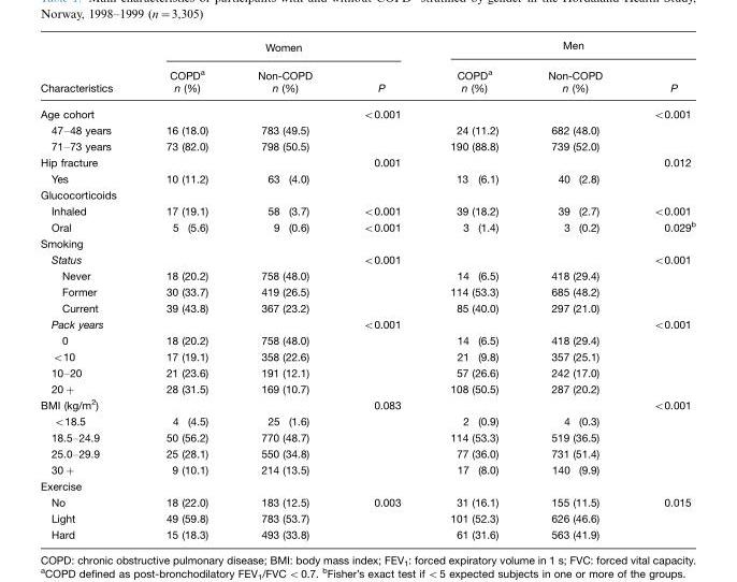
<table><thead><tr><td rowspan="3">Characteristics</td><td colspan="3">Women</td><td colspan="3">Men</td></tr><tr><td rowspan="2">COPD<sup>a</sup> n (%)</td><td rowspan="2">Non-COPD n (%)</td><td rowspan="2">P</td><td rowspan="2">COPD<sup>a</sup> n (%)</td><td rowspan="2">Non-COPD n (%)</td><td rowspan="2">P</td></tr><tr></tr></thead><tbody><tr><td>Age cohort</td><td></td><td></td><td>&lt;0.001</td><td></td><td></td><td>&lt;0.001</td></tr><tr><td>47–48 years</td><td>16 (18.0)</td><td>783 (49.5)</td><td></td><td>24 (11.2)</td><td>682 (48.0)</td><td></td></tr><tr><td>71–73 years</td><td>73 (82.0)</td><td>798 (50.5)</td><td></td><td>190 (88.8)</td><td>739 (52.0)</td><td></td></tr><tr><td>Hip fracture</td><td></td><td></td><td>0.001</td><td></td><td></td><td>0.012</td></tr><tr><td>Yes</td><td>10 (11.2)</td><td>63 (4.0)</td><td></td><td>13 (6.1)</td><td>40 (2.8)</td><td></td></tr><tr><td colspan="7">Glucocorticoids</td></tr><tr><td>Inhaled</td><td>17 (19.1)</td><td>58 (3.7)</td><td>&lt;0.001</td><td>39 (18.2)</td><td>39 (2.7)</td><td>&lt;0.001</td></tr><tr><td>Oral</td><td>5 (5.6)</td><td>9 (0.6)</td><td>&lt;0.001</td><td>3 (1.4)</td><td>3 (0.2)</td><td>0.029<sup>b</sup></td></tr><tr><td colspan="7">Smoking</td></tr><tr><td>Status</td><td></td><td></td><td>&lt;0.001</td><td></td><td></td><td>&lt;0.001</td></tr><tr><td>Never</td><td>18 (20.2)</td><td>758 (48.0)</td><td></td><td>14 (6.5)</td><td>418 (29.4)</td><td></td></tr><tr><td>Former</td><td>30 (33.7)</td><td>419 (26.5)</td><td></td><td>114 (53.3)</td><td>685 (48.2)</td><td></td></tr><tr><td>Current</td><td>39 (43.8)</td><td>367 (23.2)</td><td></td><td>85 (40.0)</td><td>297 (21.0)</td><td></td></tr><tr><td>Pack years</td><td></td><td></td><td>&lt;0.001</td><td></td><td></td><td>&lt;0.001</td></tr><tr><td>0</td><td>18 (20.2)</td><td>758 (48.0)</td><td></td><td>14 (6.5)</td><td>418 (29.4)</td><td></td></tr><tr><td>&lt;10</td><td>17 (19.1)</td><td>358 (22.6)</td><td></td><td>21 (9.8)</td><td>357 (25.1)</td><td></td></tr><tr><td>10–20</td><td>21 (23.6)</td><td>191 (12.1)</td><td></td><td>57 (26.6)</td><td>242 (17.0)</td><td></td></tr><tr><td>20+</td><td>28 (31.5)</td><td>169 (10.7)</td><td></td><td>108 (50.5)</td><td>287 (20.2)</td><td></td></tr><tr><td>BMI (kg/m<sup>2</sup>)</td><td></td><td></td><td>0.083</td><td></td><td></td><td>&lt;0.001</td></tr><tr><td>&lt;18.5</td><td>4 (4.5)</td><td>25 (1.6)</td><td></td><td>2 (0.9)</td><td>4 (0.3)</td><td></td></tr><tr><td>18.5–24.9</td><td>50 (56.2)</td><td>770 (48.7)</td><td></td><td>114 (53.3)</td><td>519 (36.5)</td><td></td></tr><tr><td>25.0–29.9</td><td>25 (28.1)</td><td>550 (34.8)</td><td></td><td>77 (36.0)</td><td>731 (51.4)</td><td></td></tr><tr><td>30+</td><td>9 (10.1)</td><td>214 (13.5)</td><td></td><td>17 (8.0)</td><td>140 (9.9)</td><td></td></tr><tr><td colspan="7">Exercise</td></tr><tr><td>No</td><td>18 (22.0)</td><td>183 (12.5)</td><td>0.003</td><td>31 (16.1)</td><td>155 (11.5)</td><td>0.015</td></tr><tr><td>Light</td><td>49 (59.8)</td><td>783 (53.7)</td><td></td><td>101 (52.3)</td><td>626 (46.6)</td><td></td></tr><tr><td>Hard</td><td>15 (18.3)</td><td>493 (33.8)</td><td></td><td>61 (31.6)</td><td>563 (41.9)</td><td></td></tr></tbody></table>